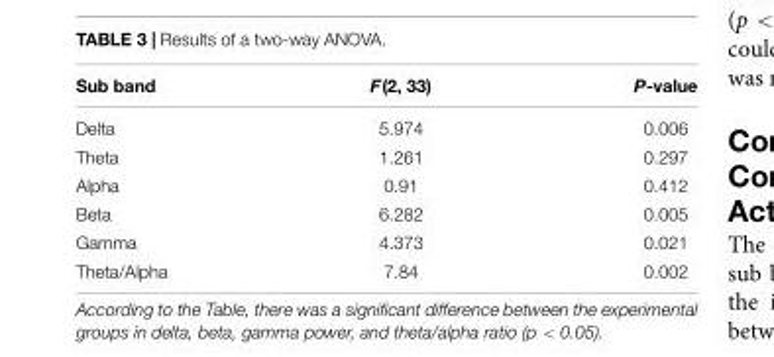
<table><thead><tr><td>Sub band</td><td>F(2, 33)</td><td>P-value</td></tr></thead><tbody><tr><td>Delta</td><td>5.974</td><td>0.006</td></tr><tr><td>Theta</td><td>1.261</td><td>0.297</td></tr><tr><td>Alpha</td><td>0.91</td><td>0.412</td></tr><tr><td>Beta</td><td>6.282</td><td>0.005</td></tr><tr><td>Gamma</td><td>4.373</td><td>0.021</td></tr><tr><td>Theta/Alpha</td><td>7.84</td><td>0.002</td></tr></tbody></table>